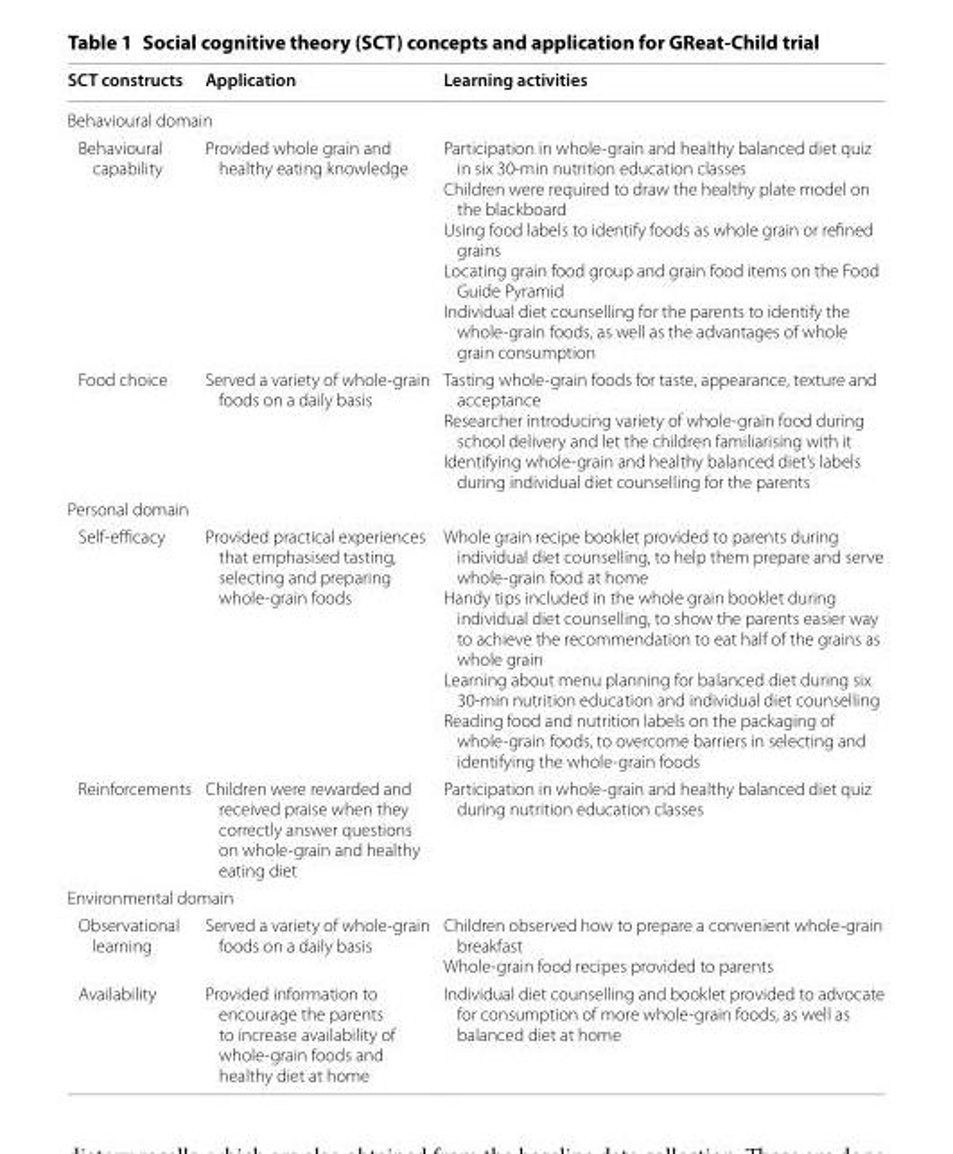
<table><thead><tr><td>SCT constructs</td><td>Application</td><td>Learning activities</td></tr></thead><tbody><tr><td colspan="3">Behavioural domain</td></tr><tr><td>Behavioural capability</td><td>Provided whole grain and healthy eating knowledge</td><td>Participation in whole-grain and healthy balanced diet quiz in six 30-min nutrition education classes Children were required to draw the healthy plate model on the blackboard Using food labels to identify foods as whole grain or refined grains Locating grain food group and grain food items on the Food Guide Pyramid Individual diet counselling for the parents to identify the whole-grain foods, as well as the advantages of whole grain consumption</td></tr><tr><td>Food choice</td><td>Served a variety of whole-grain foods on a daily basis</td><td>Tasting whole-grain foods for taste, appearance, texture and acceptance Researcher introducing variety of whole-grain food during school delivery and let the children familiarising with it Identifying whole-grain and healthy balanced diet’s labels during individual diet counselling for the parents</td></tr><tr><td colspan="3">Personal domain</td></tr><tr><td>Self-efficacy</td><td>Provided practical experiences that emphasised tasting, selecting and preparing whole-grain foods</td><td>Whole grain recipe booklet provided to parents during individual diet counselling, to help them prepare and serve whole-grain food at home Handy tips included in the whole grain booklet during individual diet counselling, to show the parents easier way to achieve the recommendation to eat half of the grains as whole grain Learning about menu planning for balanced diet during six 30-min nutrition education and individual diet counselling Reading food and nutrition labels on the packaging of whole-grain foods, to overcome barriers in selecting and identifying the whole-grain foods</td></tr><tr><td>Reinforcements</td><td>Children were rewarded and received praise when they correctly answer questions on whole-grain and healthy eating diet</td><td>Participation in whole-grain and healthy balanced diet quiz during nutrition education classes</td></tr><tr><td colspan="3">Environmental domain</td></tr><tr><td>Observational learning</td><td>Served a variety of whole-grain foods on a daily basis</td><td>Children observed how to prepare a convenient whole-grain breakfast Whole-grain food recipes provided to parents</td></tr><tr><td>Availability</td><td>Provided information to encourage the parents to increase availability of whole-grain foods and healthy diet at home</td><td>Individual diet counselling and booklet provided to advocate for consumption of more whole-grain foods, as well as balanced diet at home</td></tr></tbody></table>